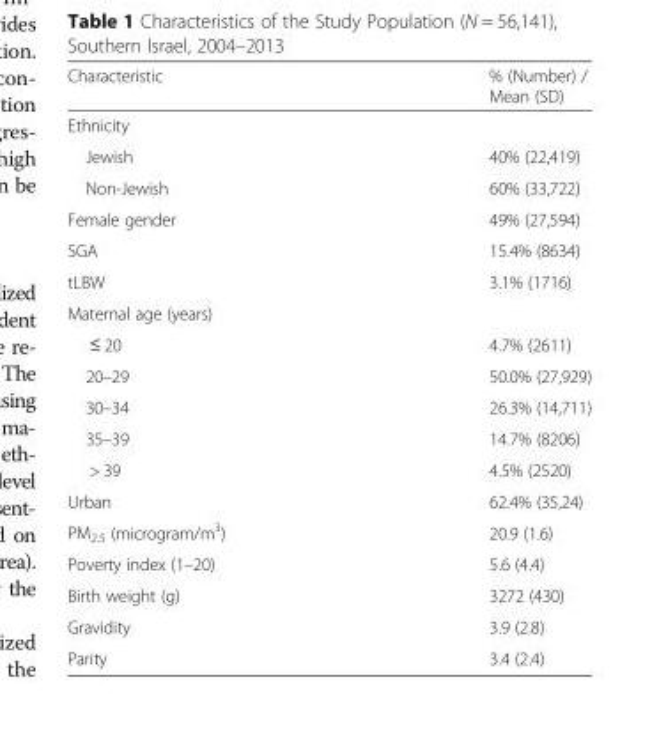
<table><thead><tr><td>Characteristic</td><td>% (Number) / Mean (SD)</td></tr></thead><tbody><tr><td colspan="2">Ethnicity</td></tr><tr><td>Jewish</td><td>40% (22,419)</td></tr><tr><td>Non-Jewish</td><td>60% (33,722)</td></tr><tr><td>Female gender</td><td>49% (27,594)</td></tr><tr><td>SGA</td><td>15.4% (8634)</td></tr><tr><td>tLBW</td><td>3.1% (1716)</td></tr><tr><td colspan="2">Maternal age (years)</td></tr><tr><td>≤ 20</td><td>4.7% (2611)</td></tr><tr><td>20–29</td><td>50.0% (27,929)</td></tr><tr><td>30–34</td><td>26.3% (14,711)</td></tr><tr><td>35–39</td><td>14.7% (8206)</td></tr><tr><td>&gt; 39</td><td>4.5% (2520)</td></tr><tr><td>Urban</td><td>62.4% (35,24)</td></tr><tr><td>PM<sub>2.5</sub> (microgram/m<sup>3</sup>)</td><td>20.9 (1.6)</td></tr><tr><td>Poverty index (1–20)</td><td>5.6 (4.4)</td></tr><tr><td>Birth weight (g)</td><td>3272 (430)</td></tr><tr><td>Gravidity</td><td>3.9 (2.8)</td></tr><tr><td>Parity</td><td>3.4 (2.4)</td></tr></tbody></table>